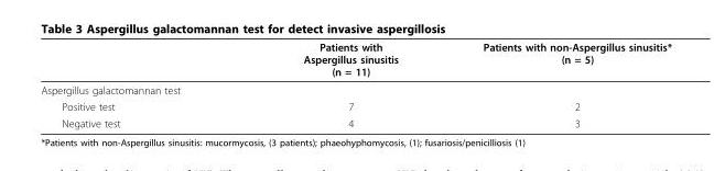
<table><thead><tr><td></td><td>Patients with Aspergillus sinusitis (n = 11)</td><td>Patients with non-Aspergillus sinusitis* (n = 5)</td></tr></thead><tbody><tr><td colspan="3">Aspergillus galactomannan test</td></tr><tr><td>Positive test</td><td>7</td><td>2</td></tr><tr><td>Negative test</td><td>4</td><td>3</td></tr></tbody></table>